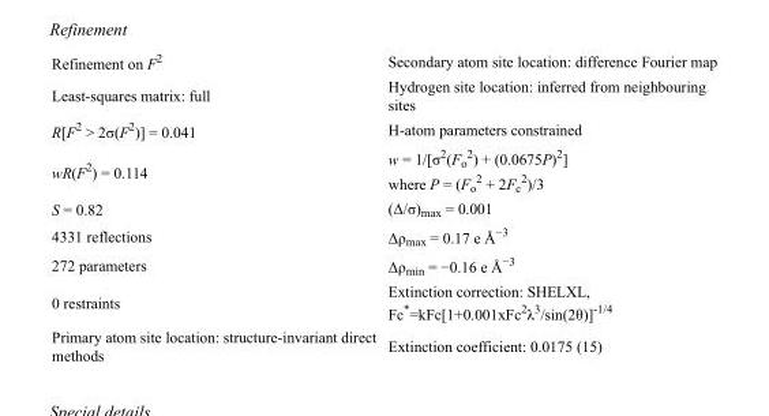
<table><tbody><tr><td>Refinement on F<sup>2</sup></td><td>Secondary atom site location: difference Fourier map</td></tr><tr><td>Least-squares matrix: full</td><td>Hydrogen site location: inferred from neighbouring sites</td></tr><tr><td>R[F<sup>2</sup> &gt; 2σ(F<sup>2</sup>)] = 0.041</td><td>H-atom parameters constrained</td></tr><tr><td>wR(F<sup>2</sup>) = 0.114</td><td>w = 1/[σ<sup>2</sup>(F<sub>o</sub> <sup>2</sup>) + (0.0675P)<sup>2</sup>] where P = (F<sub>o</sub> <sup>2</sup> + 2F<sub>c</sub> <sup>2</sup>)/3</td></tr><tr><td>S = 0.82</td><td>(Δ/σ)<sub>max</sub> = 0.001</td></tr><tr><td>4331 reflections</td><td>Δρ<sub>max</sub> = 0.17 e Å<sup>−3</sup></td></tr><tr><td>272 parameters</td><td>Δρ<sub>min</sub> = −0.16 e Å<sup>−3</sup></td></tr><tr><td>0 restraints</td><td>Extinction correction: SHELXL, Fc*=kFc[1+0.001xFc<sup>2</sup>λ<sup>3</sup>/sin(2θ)]<sup>-1/4</sup></td></tr><tr><td>Primary atom site location: structure-invariant direct methods</td><td>Extinction coefficient: 0.0175 (15)</td></tr></tbody></table>